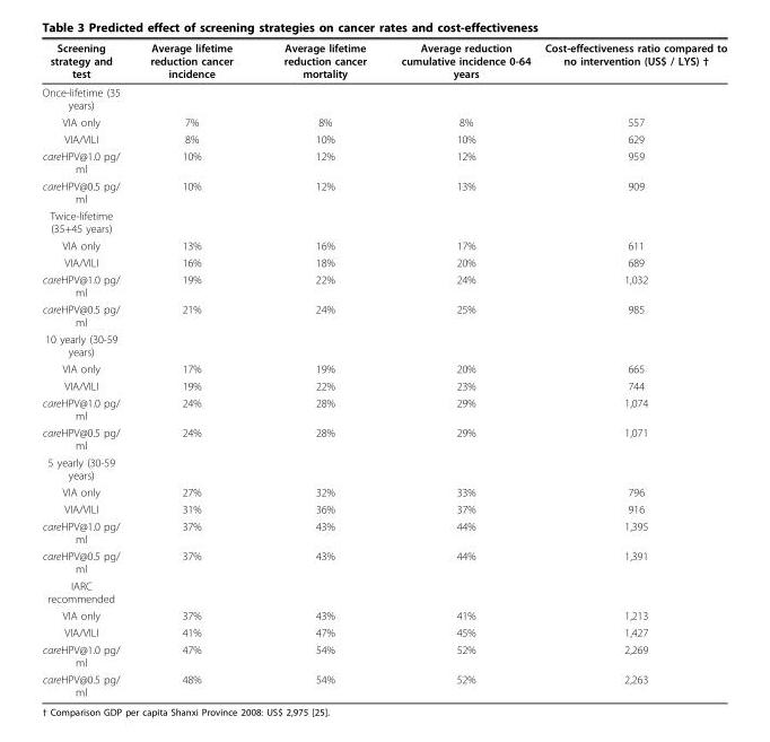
<table><tbody><tr><td>Screening strategy and test</td><td>Average lifetime reduction cancer incidence</td><td>Average lifetime reduction cancer mortality</td><td>Average reduction cumulative incidence 0-64 years</td><td>Cost-effectiveness ratio compared to no intervention (US$ / LYS) †</td></tr><tr><td colspan="5">Once-lifetime (35 years)</td></tr><tr><td>VIA only</td><td>7%</td><td>8%</td><td>8%</td><td>557</td></tr><tr><td>VIA/VILI</td><td>8%</td><td>10%</td><td>10%</td><td>629</td></tr><tr><td>careHPV@1.0 pg/ ml</td><td>10%</td><td>12%</td><td>12%</td><td>959</td></tr><tr><td>careHPV@0.5 pg/ ml</td><td>10%</td><td>12%</td><td>13%</td><td>909</td></tr><tr><td colspan="5">Twice-lifetime (35+45 years)</td></tr><tr><td>VIA only</td><td>13%</td><td>16%</td><td>17%</td><td>611</td></tr><tr><td>VIA/VILI</td><td>16%</td><td>18%</td><td>20%</td><td>689</td></tr><tr><td>careHPV@1.0 pg/ ml</td><td>19%</td><td>22%</td><td>24%</td><td>1,032</td></tr><tr><td>careHPV@0.5 pg/ ml</td><td>21%</td><td>24%</td><td>25%</td><td>985</td></tr><tr><td colspan="5">10 yearly (30-59 years)</td></tr><tr><td>VIA only</td><td>17%</td><td>19%</td><td>20%</td><td>665</td></tr><tr><td>VIA/VILI</td><td>19%</td><td>22%</td><td>23%</td><td>744</td></tr><tr><td>careHPV@1.0 pg/ ml</td><td>24%</td><td>28%</td><td>29%</td><td>1,074</td></tr><tr><td>careHPV@0.5 pg/ ml</td><td>24%</td><td>28%</td><td>29%</td><td>1,071</td></tr><tr><td colspan="5">5 yearly (30-59 years)</td></tr><tr><td>VIA only</td><td>27%</td><td>32%</td><td>33%</td><td>796</td></tr><tr><td>VIA/VILI</td><td>31%</td><td>36%</td><td>37%</td><td>916</td></tr><tr><td>careHPV@1.0 pg/ ml</td><td>37%</td><td>43%</td><td>44%</td><td>1,395</td></tr><tr><td>careHPV@0.5 pg/ ml</td><td>37%</td><td>43%</td><td>44%</td><td>1,391</td></tr><tr><td colspan="5">IARC recommended</td></tr><tr><td>VIA only</td><td>37%</td><td>43%</td><td>41%</td><td>1,213</td></tr><tr><td>VIA/VILI</td><td>41%</td><td>47%</td><td>45%</td><td>1,427</td></tr><tr><td>careHPV@1.0 pg/ ml</td><td>47%</td><td>54%</td><td>52%</td><td>2,269</td></tr><tr><td>careHPV@0.5 pg/ ml</td><td>48%</td><td>54%</td><td>52%</td><td>2,263</td></tr></tbody></table>